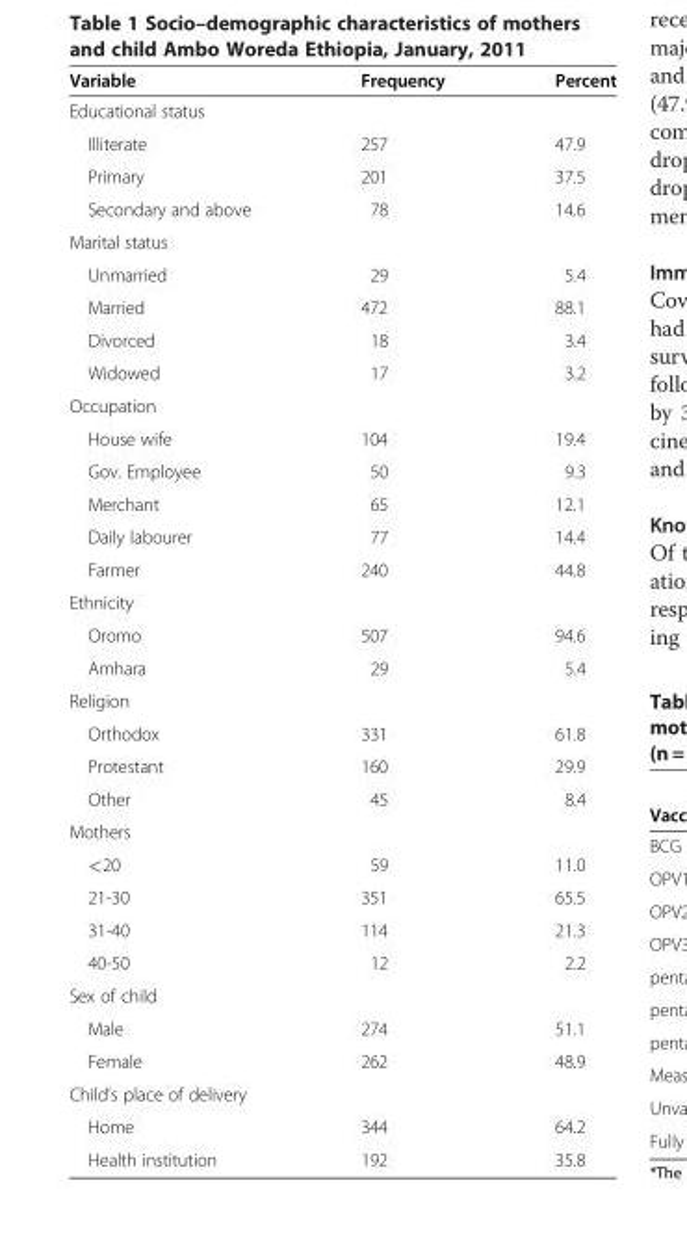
<table><thead><tr><td>Variable</td><td>Frequency</td><td>Percent</td></tr></thead><tbody><tr><td colspan="3">Educational status</td></tr><tr><td>Illiterate</td><td>257</td><td>47.9</td></tr><tr><td>Primary</td><td>201</td><td>37.5</td></tr><tr><td>Secondary and above</td><td>78</td><td>14.6</td></tr><tr><td colspan="3">Marital status</td></tr><tr><td>Unmarried</td><td>29</td><td>5.4</td></tr><tr><td>Married</td><td>472</td><td>88.1</td></tr><tr><td>Divorced</td><td>18</td><td>3.4</td></tr><tr><td>Widowed</td><td>17</td><td>3.2</td></tr><tr><td colspan="3">Occupation</td></tr><tr><td>House wife</td><td>104</td><td>19.4</td></tr><tr><td>Gov. Employee</td><td>50</td><td>9.3</td></tr><tr><td>Merchant</td><td>65</td><td>12.1</td></tr><tr><td>Daily labourer</td><td>77</td><td>14.4</td></tr><tr><td>Farmer</td><td>240</td><td>44.8</td></tr><tr><td colspan="3">Ethnicity</td></tr><tr><td>Oromo</td><td>507</td><td>94.6</td></tr><tr><td>Amhara</td><td>29</td><td>5.4</td></tr><tr><td colspan="3">Religion</td></tr><tr><td>Orthodox</td><td>331</td><td>61.8</td></tr><tr><td>Protestant</td><td>160</td><td>29.9</td></tr><tr><td>Other</td><td>45</td><td>8.4</td></tr><tr><td colspan="3">Mothers</td></tr><tr><td>&lt;20</td><td>59</td><td>11.0</td></tr><tr><td>21-30</td><td>351</td><td>65.5</td></tr><tr><td>31-40</td><td>114</td><td>21.3</td></tr><tr><td>40-50</td><td>12</td><td>2.2</td></tr><tr><td colspan="3">Sex of child</td></tr><tr><td>Male</td><td>274</td><td>51.1</td></tr><tr><td>Female</td><td>262</td><td>48.9</td></tr><tr><td colspan="3">Child’s place of delivery</td></tr><tr><td>Home</td><td>344</td><td>64.2</td></tr><tr><td>Health institution</td><td>192</td><td>35.8</td></tr></tbody></table>